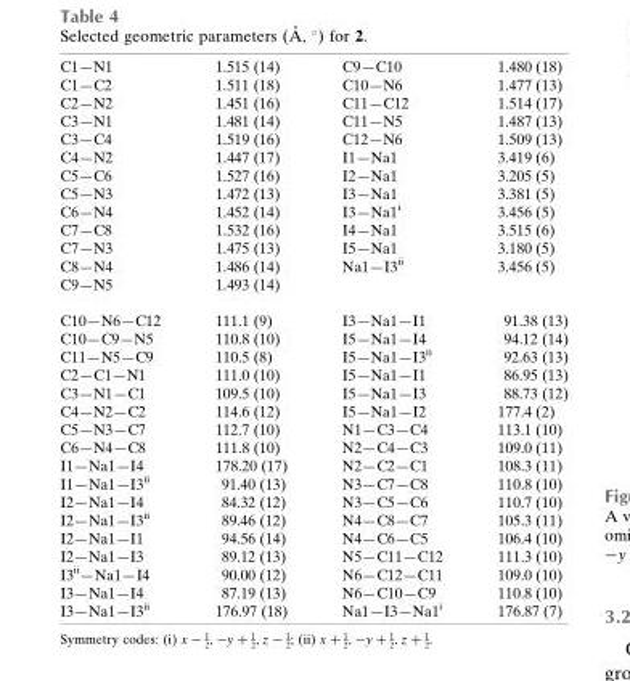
<table><tbody><tr><td>C1—N1</td><td>1.515 (14)</td><td>C9—C10</td><td>1.480 (18)</td></tr><tr><td>C1—C2</td><td>1.511 (18)</td><td>C10—N6</td><td>1.477 (13)</td></tr><tr><td>C2—N2</td><td>1.451 (16)</td><td>C11—C12</td><td>1.514 (17)</td></tr><tr><td>C3—N1</td><td>1.481 (14)</td><td>C11—N5</td><td>1.487 (13)</td></tr><tr><td>C3—C4</td><td>1.519 (16)</td><td>C12—N6</td><td>1.509 (13)</td></tr><tr><td>C4—N2</td><td>1.447 (17)</td><td>I1—Na1</td><td>3.419 (6)</td></tr><tr><td>C5—C6</td><td>1.527 (16)</td><td>I2—Na1</td><td>3.205 (5)</td></tr><tr><td>C5—N3</td><td>1.472 (13)</td><td>I3—Na1</td><td>3.381 (5)</td></tr><tr><td>C6—N4</td><td>1.452 (14)</td><td>I3—Na1<sup>i</sup></td><td>3.456 (5)</td></tr><tr><td>C7—C8</td><td>1.532 (16)</td><td>I4—Na1</td><td>3.515 (6)</td></tr><tr><td>C7—N3</td><td>1.475 (13)</td><td>I5—Na1</td><td>3.180 (5)</td></tr><tr><td>C8—N4</td><td>1.486 (14)</td><td>Na1—I3<sup>ii</sup></td><td>3.456 (5)</td></tr><tr><td>C9—N5</td><td>1.493 (14)</td><td></td><td></td></tr><tr><td>C10—N6—C12</td><td>111.1 (9)</td><td>I3—Na1—I1</td><td>91.38 (13)</td></tr><tr><td>C10—C9—N5</td><td>110.8 (10)</td><td>I5—Na1—I4</td><td>94.12 (14)</td></tr><tr><td>C11—N5—C9</td><td>110.5 (8)</td><td>I5—Na1—I3<sup>ii</sup></td><td>92.63 (13)</td></tr><tr><td>C2—C1—N1</td><td>111.0 (10)</td><td>I5—Na1—I1</td><td>86.95 (13)</td></tr><tr><td>C3—N1—C1</td><td>109.5 (10)</td><td>I5—Na1—I3</td><td>88.73 (12)</td></tr><tr><td>C4—N2—C2</td><td>114.6 (12)</td><td>I5—Na1—I2</td><td>177.4 (2)</td></tr><tr><td>C5—N3—C7</td><td>112.7 (10)</td><td>N1—C3—C4</td><td>113.1 (10)</td></tr><tr><td>C6—N4—C8</td><td>111.8 (10)</td><td>N2—C4—C3</td><td>109.0 (11)</td></tr><tr><td>I1—Na1—I4</td><td>178.20 (17)</td><td>N2—C2—C1</td><td>108.3 (11)</td></tr><tr><td>I1—Na1—I3<sup>ii</sup></td><td>91.40 (13)</td><td>N3—C7—C8</td><td>110.8 (10)</td></tr><tr><td>I2—Na1—I4</td><td>84.32 (12)</td><td>N3—C5—C6</td><td>110.7 (10)</td></tr><tr><td>I2—Na1—I3<sup>ii</sup></td><td>89.46 (12)</td><td>N4—C8—C7</td><td>105.3 (11)</td></tr><tr><td>I2—Na1—I1</td><td>94.56 (14)</td><td>N4—C6—C5</td><td>106.4 (10)</td></tr><tr><td>I2—Na1—I3</td><td>89.12 (13)</td><td>N5—C11—C12</td><td>111.3 (10)</td></tr><tr><td>I3<sup>ii</sup>—Na1—I4</td><td>90.00 (12)</td><td>N6—C12—C11</td><td>109.0 (10)</td></tr><tr><td>I3—Na1—I4</td><td>87.19 (13)</td><td>N6—C10—C9</td><td>110.8 (10)</td></tr><tr><td>I3—Na1—I3<sup>ii</sup></td><td>176.97 (18)</td><td>Na1—I3—Na1<sup>i</sup></td><td>176.87 (7)</td></tr></tbody></table>